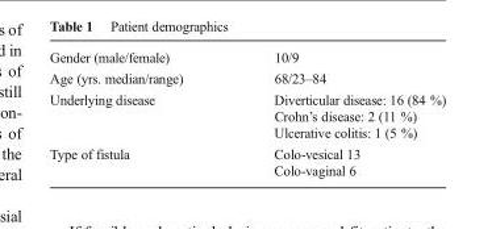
<table><tbody><tr><td>Gender (male/female)</td><td>10/9</td></tr><tr><td>Age (yrs. median/range)</td><td>68/23–84</td></tr><tr><td>Underlying disease</td><td>Diverticular disease: 16 (84 %) Crohn’s disease: 2 (11 %) Ulcerative colitis: 1 (5 %)</td></tr><tr><td>Type of fistula</td><td>Colo-vesical 13 Colo-vaginal 6</td></tr></tbody></table>